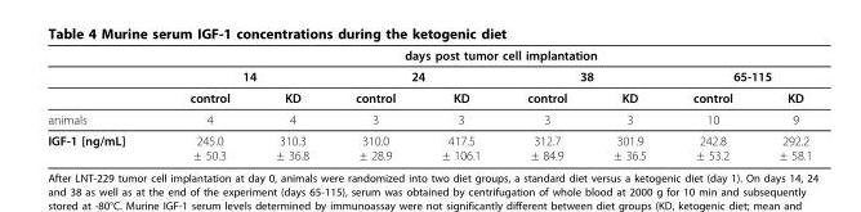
<table><thead><tr><td rowspan="3"></td><td colspan="8">days post tumor cell implantation</td></tr><tr><td colspan="2">14</td><td colspan="2">24</td><td colspan="2">38</td><td colspan="2">65-115</td></tr><tr><td>control</td><td>KD</td><td>control</td><td>KD</td><td>control</td><td>KD</td><td>control</td><td>KD</td></tr></thead><tbody><tr><td>animals</td><td>4</td><td>4</td><td>3</td><td>3</td><td>3</td><td>3</td><td>10</td><td>9</td></tr><tr><td>IGF-1 [ng/mL]</td><td>245.0 ± 50.3</td><td>310.3 ± 36.8</td><td>310.0 ± 28.9</td><td>417.5 ± 106.1</td><td>312.7 ± 84.9</td><td>301.9 ± 36.5</td><td>242.8 ± 53.2</td><td>292.2 ± 58.1</td></tr></tbody></table>